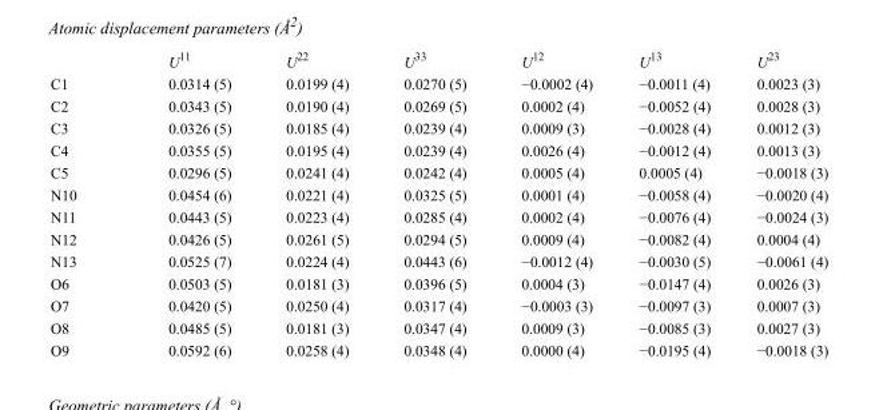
<table><thead><tr><td></td><td>U<sup>11</sup></td><td>U<sup>22</sup></td><td>U<sup>33</sup></td><td>U<sup>12</sup></td><td>U<sup>13</sup></td><td>U<sup>23</sup></td></tr></thead><tbody><tr><td>C1</td><td>0.0314 (5)</td><td>0.0199 (4)</td><td>0.0270 (5)</td><td>−0.0002 (4)</td><td>−0.0011 (4)</td><td>0.0023 (3)</td></tr><tr><td>C2</td><td>0.0343 (5)</td><td>0.0190 (4)</td><td>0.0269 (5)</td><td>0.0002 (4)</td><td>−0.0052 (4)</td><td>0.0028 (3)</td></tr><tr><td>C3</td><td>0.0326 (5)</td><td>0.0185 (4)</td><td>0.0239 (4)</td><td>0.0009 (3)</td><td>−0.0028 (4)</td><td>0.0012 (3)</td></tr><tr><td>C4</td><td>0.0355 (5)</td><td>0.0195 (4)</td><td>0.0239 (4)</td><td>0.0026 (4)</td><td>−0.0012 (4)</td><td>0.0013 (3)</td></tr><tr><td>C5</td><td>0.0296 (5)</td><td>0.0241 (4)</td><td>0.0242 (4)</td><td>0.0005 (4)</td><td>0.0005 (4)</td><td>−0.0018 (3)</td></tr><tr><td>N10</td><td>0.0454 (6)</td><td>0.0221 (4)</td><td>0.0325 (5)</td><td>0.0001 (4)</td><td>−0.0058 (4)</td><td>−0.0020 (4)</td></tr><tr><td>N11</td><td>0.0443 (5)</td><td>0.0223 (4)</td><td>0.0285 (4)</td><td>0.0002 (4)</td><td>−0.0076 (4)</td><td>−0.0024 (3)</td></tr><tr><td>N12</td><td>0.0426 (5)</td><td>0.0261 (5)</td><td>0.0294 (5)</td><td>0.0009 (4)</td><td>−0.0082 (4)</td><td>0.0004 (4)</td></tr><tr><td>N13</td><td>0.0525 (7)</td><td>0.0224 (4)</td><td>0.0443 (6)</td><td>−0.0012 (4)</td><td>−0.0030 (5)</td><td>−0.0061 (4)</td></tr><tr><td>O6</td><td>0.0503 (5)</td><td>0.0181 (3)</td><td>0.0396 (5)</td><td>0.0004 (3)</td><td>−0.0147 (4)</td><td>0.0026 (3)</td></tr><tr><td>O7</td><td>0.0420 (5)</td><td>0.0250 (4)</td><td>0.0317 (4)</td><td>−0.0003 (3)</td><td>−0.0097 (3)</td><td>0.0007 (3)</td></tr><tr><td>O8</td><td>0.0485 (5)</td><td>0.0181 (3)</td><td>0.0347 (4)</td><td>0.0009 (3)</td><td>−0.0085 (3)</td><td>0.0027 (3)</td></tr><tr><td>O9</td><td>0.0592 (6)</td><td>0.0258 (4)</td><td>0.0348 (4)</td><td>0.0000 (4)</td><td>−0.0195 (4)</td><td>−0.0018 (3)</td></tr></tbody></table>